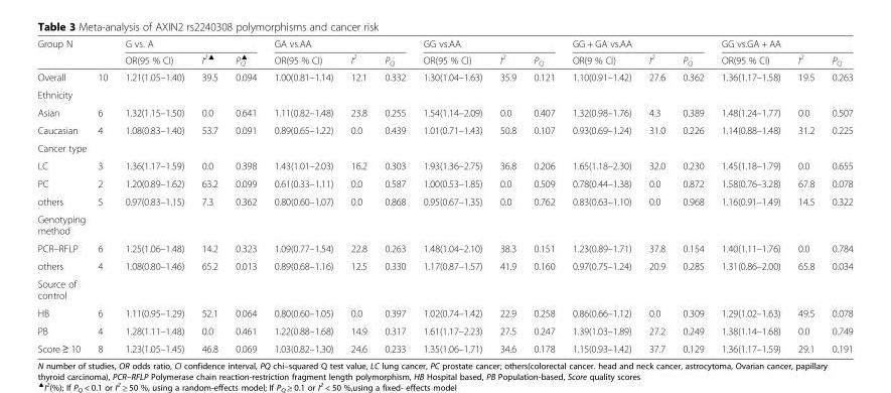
<table><thead><tr><td rowspan="2" colspan="2">Group N</td><td colspan="3">G vs. A</td><td colspan="3">GA vs.AA</td><td colspan="3">GG vs.AA</td><td colspan="3">GG + GA vs.AA</td><td colspan="3">GG vs.GA + AA</td></tr><tr><td rowspan="2">OR(95 % CI) 1.21(1.05–1.40)</td><td rowspan="2">I<sup>2▲</sup> 39.5</td><td rowspan="2">P<sub>Q</sub> <sup>▲</sup> 0.094</td><td rowspan="2">OR(95 % CI) 1.00(0.81–1.14)</td><td rowspan="2">I<sup>2</sup> 12.1</td><td rowspan="2">P<sub>Q</sub> 0.332</td><td rowspan="2">OR(95 % CI) 1.30(1.04–1.63)</td><td rowspan="2">I<sup>2</sup> 35.9</td><td rowspan="2">P<sub>Q</sub> 0.121</td><td rowspan="2">OR(9 % CI) 1.10(0.91–1.42)</td><td rowspan="2">I<sup>2</sup> 27.6</td><td rowspan="2">P<sub>Q</sub> 0.362</td><td rowspan="2">OR(95 % CI) 1.36(1.17–1.58)</td><td rowspan="2">I<sup>2</sup> 19.5</td><td rowspan="2">P<sub>Q</sub> 0.263</td></tr><tr><td>Overall</td><td>10</td></tr></thead><tbody><tr><td colspan="17">Ethnicity</td></tr><tr><td>Asian</td><td>6</td><td>1.32(1.15–1.50)</td><td>0.0</td><td>0.641</td><td>1.11(0.82–1.48)</td><td>23.8</td><td>0.255</td><td>1.54(1.14–2.09)</td><td>0.0</td><td>0.407</td><td>1.32(0.98–1.76)</td><td>4.3</td><td>0.389</td><td>1.48(1.24–1.77)</td><td>0.0</td><td>0.507</td></tr><tr><td>Caucasian</td><td>4</td><td>1.08(0.83–1.40)</td><td>53.7</td><td>0.091</td><td>0.89(0.65–1.22)</td><td>0.0</td><td>0.439</td><td>1.01(0.71–1.43)</td><td>50.8</td><td>0.107</td><td>0.93(0.69–1.24)</td><td>31.0</td><td>0.226</td><td>1.14(0.88–1.48)</td><td>31.2</td><td>0.225</td></tr><tr><td colspan="17">Cancer type</td></tr><tr><td>LC</td><td>3</td><td>1.36(1.17–1.59)</td><td>0.0</td><td>0.398</td><td>1.43(1.01–2.03)</td><td>16.2</td><td>0.303</td><td>1.93(1.36–2.75)</td><td>36.8</td><td>0.206</td><td>1.65(1.18–2.30)</td><td>32.0</td><td>0.230</td><td>1.45(1.18–1.79)</td><td>0.0</td><td>0.655</td></tr><tr><td>PC</td><td>2</td><td>1.20(0.89–1.62)</td><td>63.2</td><td>0.099</td><td>0.61(0.33–1.11)</td><td>0.0</td><td>0.587</td><td>1.00(0.53–1.85)</td><td>0.0</td><td>0.509</td><td>0.78(0.44–1.38)</td><td>0.0</td><td>0.872</td><td>1.58(0.76–3.28)</td><td>67.8</td><td>0.078</td></tr><tr><td>others</td><td>5</td><td>0.97(0.83–1.15)</td><td>7.3</td><td>0.362</td><td>0.80(0.60–1.07)</td><td>0.0</td><td>0.868</td><td>0.95(0.67–1.35)</td><td>0.0</td><td>0.762</td><td>0.83(0.63–1.10)</td><td>0.0</td><td>0.968</td><td>1.16(0.91–1.49)</td><td>14.5</td><td>0.322</td></tr><tr><td colspan="17">Genotyping method</td></tr><tr><td>PCR–RFLP</td><td>6</td><td>1.25(1.06–1.48)</td><td>14.2</td><td>0.323</td><td>1.09(0.77–1.54)</td><td>22.8</td><td>0.263</td><td>1.48(1.04–2.10)</td><td>38.3</td><td>0.151</td><td>1.23(0.89–1.71)</td><td>37.8</td><td>0.154</td><td>1.40(1.11–1.76)</td><td>0.0</td><td>0.784</td></tr><tr><td>others</td><td>4</td><td>1.08(0.80–1.46)</td><td>65.2</td><td>0.013</td><td>0.89(0.68–1.16)</td><td>12.5</td><td>0.330</td><td>1.17(0.87–1.57)</td><td>41.9</td><td>0.160</td><td>0.97(0.75–1.24)</td><td>20.9</td><td>0.285</td><td>1.31(0.86–2.00)</td><td>65.8</td><td>0.034</td></tr><tr><td colspan="17">Source of control</td></tr><tr><td>HB</td><td>6</td><td>1.11(0.95–1.29)</td><td>52.1</td><td>0.064</td><td>0.80(0.60–1.05)</td><td>0.0</td><td>0.397</td><td>1.02(0.74–1.42)</td><td>22.9</td><td>0.258</td><td>0.86(0.66–1.12)</td><td>0.0</td><td>0.309</td><td>1.29(1.02–1.63)</td><td>49.5</td><td>0.078</td></tr><tr><td>PB</td><td>4</td><td>1.28(1.11–1.48)</td><td>0.0</td><td>0.461</td><td>1.22(0.88–1.68)</td><td>14.9</td><td>0.317</td><td>1.61(1.17–2.23)</td><td>27.5</td><td>0.247</td><td>1.39(1.03–1.89)</td><td>27.2</td><td>0.249</td><td>1.38(1.14–1.68)</td><td>0.0</td><td>0.749</td></tr><tr><td>Score ≥ 10</td><td>8</td><td>1.23(1.05–1.45)</td><td>46.8</td><td>0.069</td><td>1.03(0.82–1.30)</td><td>24.6</td><td>0.233</td><td>1.35(1.06–1.71)</td><td>34.6</td><td>0.178</td><td>1.15(0.93–1.42)</td><td>37.7</td><td>0.129</td><td>1.36(1.17–1.59)</td><td>29.1</td><td>0.191</td></tr></tbody></table>